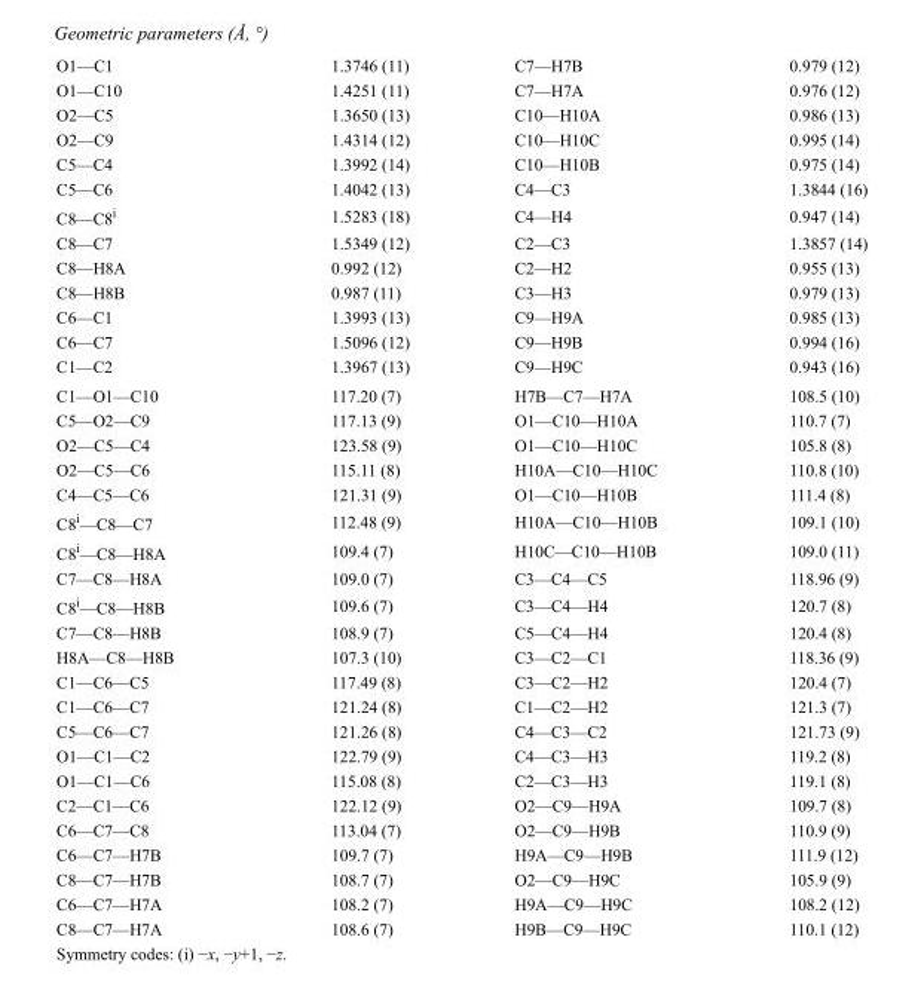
<table><tbody><tr><td>O1—C1</td><td>1.3746 (11)</td><td>C7—H7B</td><td>0.979 (12)</td></tr><tr><td>O1—C10</td><td>1.4251 (11)</td><td>C7—H7A</td><td>0.976 (12)</td></tr><tr><td>O2—C5</td><td>1.3650 (13)</td><td>C10—H10A</td><td>0.986 (13)</td></tr><tr><td>O2—C9</td><td>1.4314 (12)</td><td>C10—H10C</td><td>0.995 (14)</td></tr><tr><td>C5—C4</td><td>1.3992 (14)</td><td>C10—H10B</td><td>0.975 (14)</td></tr><tr><td>C5—C6</td><td>1.4042 (13)</td><td>C4—C3</td><td>1.3844 (16)</td></tr><tr><td>C8—C8<sup>i</sup></td><td>1.5283 (18)</td><td>C4—H4</td><td>0.947 (14)</td></tr><tr><td>C8—C7</td><td>1.5349 (12)</td><td>C2—C3</td><td>1.3857 (14)</td></tr><tr><td>C8—H8A</td><td>0.992 (12)</td><td>C2—H2</td><td>0.955 (13)</td></tr><tr><td>C8—H8B</td><td>0.987 (11)</td><td>C3—H3</td><td>0.979 (13)</td></tr><tr><td>C6—C1</td><td>1.3993 (13)</td><td>C9—H9A</td><td>0.985 (13)</td></tr><tr><td>C6—C7</td><td>1.5096 (12)</td><td>C9—H9B</td><td>0.994 (16)</td></tr><tr><td>C1—C2</td><td>1.3967 (13)</td><td>C9—H9C</td><td>0.943 (16)</td></tr><tr><td>C1—O1—C10</td><td>117.20 (7)</td><td>H7B—C7—H7A</td><td>108.5 (10)</td></tr><tr><td>C5—O2—C9</td><td>117.13 (9)</td><td>O1—C10—H10A</td><td>110.7 (7)</td></tr><tr><td>O2—C5—C4</td><td>123.58 (9)</td><td>O1—C10—H10C</td><td>105.8 (8)</td></tr><tr><td>O2—C5—C6</td><td>115.11 (8)</td><td>H10A—C10—H10C</td><td>110.8 (10)</td></tr><tr><td>C4—C5—C6</td><td>121.31 (9)</td><td>O1—C10—H10B</td><td>111.4 (8)</td></tr><tr><td>C8<sup>i</sup>—C8—C7</td><td>112.48 (9)</td><td>H10A—C10—H10B</td><td>109.1 (10)</td></tr><tr><td>C8<sup>i</sup>—C8—H8A</td><td>109.4 (7)</td><td>H10C—C10—H10B</td><td>109.0 (11)</td></tr><tr><td>C7—C8—H8A</td><td>109.0 (7)</td><td>C3—C4—C5</td><td>118.96 (9)</td></tr><tr><td>C8<sup>i</sup>—C8—H8B</td><td>109.6 (7)</td><td>C3—C4—H4</td><td>120.7 (8)</td></tr><tr><td>C7—C8—H8B</td><td>108.9 (7)</td><td>C5—C4—H4</td><td>120.4 (8)</td></tr><tr><td>H8A—C8—H8B</td><td>107.3 (10)</td><td>C3—C2—C1</td><td>118.36 (9)</td></tr><tr><td>C1—C6—C5</td><td>117.49 (8)</td><td>C3—C2—H2</td><td>120.4 (7)</td></tr><tr><td>C1—C6—C7</td><td>121.24 (8)</td><td>C1—C2—H2</td><td>121.3 (7)</td></tr><tr><td>C5—C6—C7</td><td>121.26 (8)</td><td>C4—C3—C2</td><td>121.73 (9)</td></tr><tr><td>O1—C1—C2</td><td>122.79 (9)</td><td>C4—C3—H3</td><td>119.2 (8)</td></tr><tr><td>O1—C1—C6</td><td>115.08 (8)</td><td>C2—C3—H3</td><td>119.1 (8)</td></tr><tr><td>C2—C1—C6</td><td>122.12 (9)</td><td>O2—C9—H9A</td><td>109.7 (8)</td></tr><tr><td>C6—C7—C8</td><td>113.04 (7)</td><td>O2—C9—H9B</td><td>110.9 (9)</td></tr><tr><td>C6—C7—H7B</td><td>109.7 (7)</td><td>H9A—C9—H9B</td><td>111.9 (12)</td></tr><tr><td>C8—C7—H7B</td><td>108.7 (7)</td><td>O2—C9—H9C</td><td>105.9 (9)</td></tr><tr><td>C6—C7—H7A</td><td>108.2 (7)</td><td>H9A—C9—H9C</td><td>108.2 (12)</td></tr><tr><td>C8—C7—H7A</td><td>108.6 (7)</td><td>H9B—C9—H9C</td><td>110.1 (12)</td></tr></tbody></table>